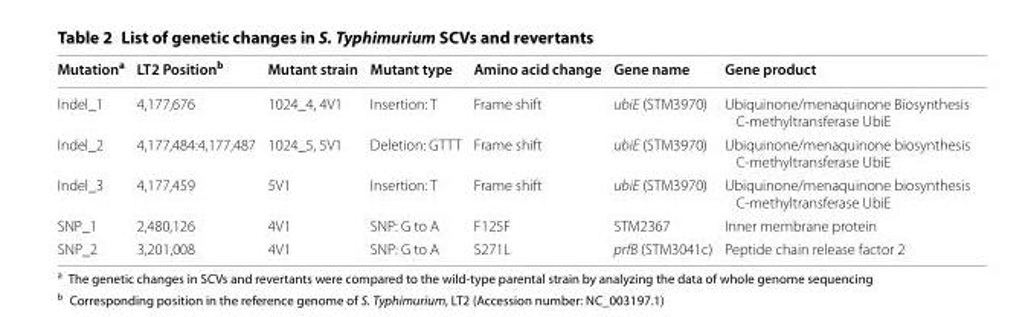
<table><thead><tr><td>Mutation<sup>a</sup></td><td>LT2 Position<sup>b</sup></td><td>Mutant strain</td><td>Mutant type</td><td>Amino acid change</td><td>Gene name</td><td>Gene product</td></tr></thead><tbody><tr><td>Indel_1</td><td>4,177,676</td><td>1024_4, 4V1</td><td>Insertion: T</td><td>Frame shift</td><td>ubiE (STM3970)</td><td>Ubiquinone/menaquinone Biosynthesis C-methyltransferase UbiE</td></tr><tr><td>Indel_2</td><td>4,177,484:4,177,487</td><td>1024_5, 5V1</td><td>Deletion: GTTT</td><td>Frame shift</td><td>ubiE (STM3970)</td><td>Ubiquinone/menaquinone biosynthesis C-methyltransferase UbiE</td></tr><tr><td>Indel_3</td><td>4,177,459</td><td>5V1</td><td>Insertion: T</td><td>Frame shift</td><td>ubiE (STM3970)</td><td>Ubiquinone/menaquinone biosynthesis C-methyltransferase UbiE</td></tr><tr><td>SNP_1</td><td>2,480,126</td><td>4V1</td><td>SNP: G to A</td><td>F125F</td><td>STM2367</td><td>Inner membrane protein</td></tr><tr><td>SNP_2</td><td>3,201,008</td><td>4V1</td><td>SNP: G to A</td><td>S271L</td><td>prfB (STM3041c)</td><td>Peptide chain release factor 2</td></tr></tbody></table>